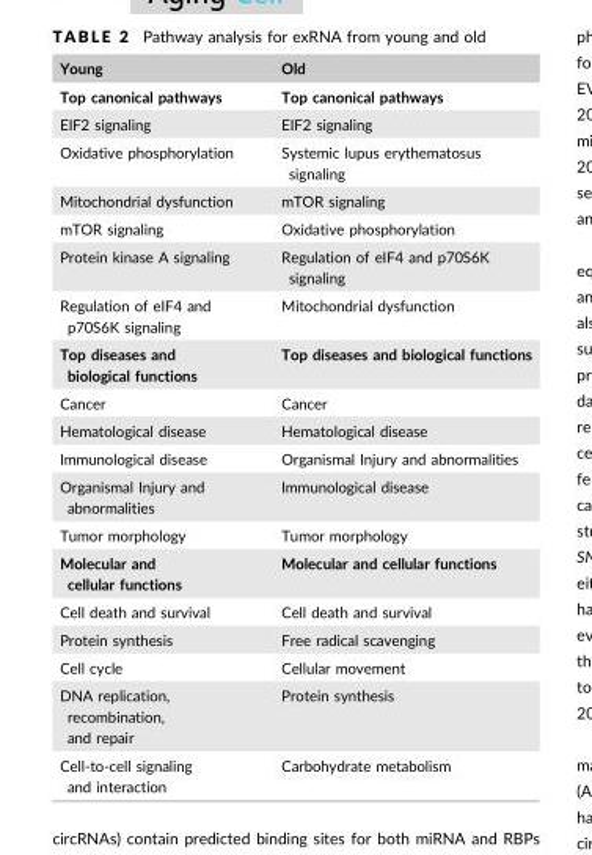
<table><thead><tr><td>Young</td><td>Old</td></tr></thead><tbody><tr><td>Top canonical pathways</td><td>Top canonical pathways</td></tr><tr><td>EIF2 signaling</td><td>EIF2 signaling</td></tr><tr><td>Oxidative phosphorylation</td><td>Systemic lupus erythematosus signaling</td></tr><tr><td>Mitochondrial dysfunction</td><td>mTOR signaling</td></tr><tr><td>mTOR signaling</td><td>Oxidative phosphorylation</td></tr><tr><td>Protein kinase A signaling</td><td>Regulation of eIF4 and p70S6K signaling</td></tr><tr><td>Regulation of eIF4 and p70S6K signaling</td><td>Mitochondrial dysfunction</td></tr><tr><td>Top diseases and biological functions</td><td>Top diseases and biological functions</td></tr><tr><td>Cancer</td><td>Cancer</td></tr><tr><td>Hematological disease</td><td>Hematological disease</td></tr><tr><td>Immunological disease</td><td>Organismal Injury and abnormalities</td></tr><tr><td>Organismal Injury and abnormalities</td><td>Immunological disease</td></tr><tr><td>Tumor morphology</td><td>Tumor morphology</td></tr><tr><td>Molecular and cellular functions</td><td>Molecular and cellular functions</td></tr><tr><td>Cell death and survival</td><td>Cell death and survival</td></tr><tr><td>Protein synthesis</td><td>Free radical scavenging</td></tr><tr><td>Cell cycle</td><td>Cellular movement</td></tr><tr><td>DNA replication, recombination, and repair</td><td>Protein synthesis</td></tr><tr><td>Cell-to-cell signaling and interaction</td><td>Carbohydrate metabolism</td></tr></tbody></table>